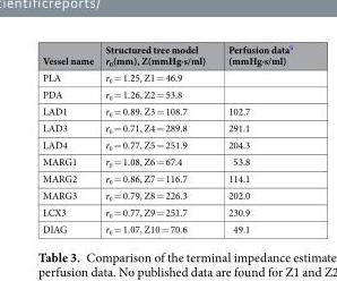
<table><thead><tr><td>Vessel name</td><td>Structured tree model r<sub>0</sub>(mm), Z(mmHg·s/ml)</td><td>Perfusion data<sup>5</sup> (mmHg·s/ml)</td></tr></thead><tbody><tr><td>PLA</td><td>r<sub>0</sub> = 1.25, Z1 = 46.9</td><td></td></tr><tr><td>PDA</td><td>r<sub>0</sub> = 1.26, Z2 = 53.8</td><td></td></tr><tr><td>LAD1</td><td>r<sub>0</sub> = 0.89, Z3 = 108.7</td><td>102.7</td></tr><tr><td>LAD3</td><td>r<sub>0</sub> = 0.71, Z4 = 289.8</td><td>291.1</td></tr><tr><td>LAD4</td><td>r<sub>0</sub> = 0.77, Z5 = 251.9</td><td>204.3</td></tr><tr><td>MARG1</td><td>r<sub>0</sub> = 1.08, Z6 = 67.4</td><td>53.8</td></tr><tr><td>MARG2</td><td>r<sub>0</sub> = 0.86, Z7 = 116.7</td><td>114.1</td></tr><tr><td>MARG3</td><td>r<sub>0</sub> = 0.79, Z8 = 226.3</td><td>202.0</td></tr><tr><td>LCX3</td><td>r<sub>0</sub> = 0.77, Z9 = 251.7</td><td>230.9</td></tr><tr><td>DIAG</td><td>r<sub>0</sub> = 1.07, Z10 = 70.6</td><td>49.1</td></tr></tbody></table>